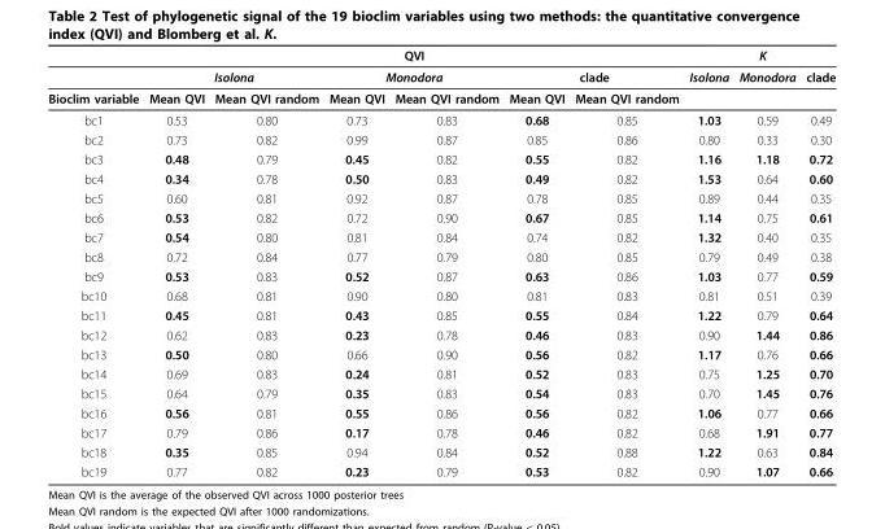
<table><thead><tr><td rowspan="3">Bioclim variable</td><td colspan="6">QVI</td><td colspan="3">K</td></tr><tr><td colspan="2">Isolona</td><td colspan="2">Monodora</td><td colspan="2">clade</td><td rowspan="2">Isolona</td><td rowspan="2">Monodora</td><td rowspan="2">clade</td></tr><tr><td>Mean QVI</td><td>Mean QVI random</td><td>Mean QVI</td><td>Mean QVI random</td><td>Mean QVI</td><td>Mean QVI random</td></tr></thead><tbody><tr><td>bc1</td><td>0.53</td><td>0.80</td><td>0.73</td><td>0.83</td><td>0.68</td><td>0.85</td><td>1.03</td><td>0.59</td><td>0.49</td></tr><tr><td>bc2</td><td>0.73</td><td>0.82</td><td>0.99</td><td>0.87</td><td>0.85</td><td>0.86</td><td>0.80</td><td>0.33</td><td>0.30</td></tr><tr><td>bc3</td><td>0.48</td><td>0.79</td><td>0.45</td><td>0.82</td><td>0.55</td><td>0.82</td><td>1.16</td><td>1.18</td><td>0.72</td></tr><tr><td>bc4</td><td>0.34</td><td>0.78</td><td>0.50</td><td>0.83</td><td>0.49</td><td>0.82</td><td>1.53</td><td>0.64</td><td>0.60</td></tr><tr><td>bc5</td><td>0.60</td><td>0.81</td><td>0.92</td><td>0.87</td><td>0.78</td><td>0.85</td><td>0.89</td><td>0.44</td><td>0.35</td></tr><tr><td>bc6</td><td>0.53</td><td>0.82</td><td>0.72</td><td>0.90</td><td>0.67</td><td>0.85</td><td>1.14</td><td>0.75</td><td>0.61</td></tr><tr><td>bc7</td><td>0.54</td><td>0.80</td><td>0.81</td><td>0.84</td><td>0.74</td><td>0.82</td><td>1.32</td><td>0.40</td><td>0.35</td></tr><tr><td>bc8</td><td>0.72</td><td>0.84</td><td>0.77</td><td>0.79</td><td>0.80</td><td>0.85</td><td>0.79</td><td>0.49</td><td>0.38</td></tr><tr><td>bc9</td><td>0.53</td><td>0.83</td><td>0.52</td><td>0.87</td><td>0.63</td><td>0.86</td><td>1.03</td><td>0.77</td><td>0.59</td></tr><tr><td>bc10</td><td>0.68</td><td>0.81</td><td>0.90</td><td>0.80</td><td>0.81</td><td>0.83</td><td>0.81</td><td>0.51</td><td>0.39</td></tr><tr><td>bc11</td><td>0.45</td><td>0.81</td><td>0.43</td><td>0.85</td><td>0.55</td><td>0.84</td><td>1.22</td><td>0.79</td><td>0.64</td></tr><tr><td>bc12</td><td>0.62</td><td>0.83</td><td>0.23</td><td>0.78</td><td>0.46</td><td>0.83</td><td>0.90</td><td>1.44</td><td>0.86</td></tr><tr><td>bc13</td><td>0.50</td><td>0.80</td><td>0.66</td><td>0.90</td><td>0.56</td><td>0.82</td><td>1.17</td><td>0.76</td><td>0.66</td></tr><tr><td>bc14</td><td>0.69</td><td>0.83</td><td>0.24</td><td>0.81</td><td>0.52</td><td>0.83</td><td>0.75</td><td>1.25</td><td>0.70</td></tr><tr><td>bc15</td><td>0.64</td><td>0.79</td><td>0.35</td><td>0.83</td><td>0.54</td><td>0.83</td><td>0.70</td><td>1.45</td><td>0.76</td></tr><tr><td>bc16</td><td>0.56</td><td>0.81</td><td>0.55</td><td>0.86</td><td>0.56</td><td>0.82</td><td>1.06</td><td>0.77</td><td>0.66</td></tr><tr><td>bc17</td><td>0.79</td><td>0.86</td><td>0.17</td><td>0.78</td><td>0.46</td><td>0.82</td><td>0.68</td><td>1.91</td><td>0.77</td></tr><tr><td>bc18</td><td>0.35</td><td>0.85</td><td>0.94</td><td>0.84</td><td>0.52</td><td>0.88</td><td>1.22</td><td>0.63</td><td>0.84</td></tr><tr><td>bc19</td><td>0.77</td><td>0.82</td><td>0.23</td><td>0.79</td><td>0.53</td><td>0.82</td><td>0.90</td><td>1.07</td><td>0.66</td></tr></tbody></table>